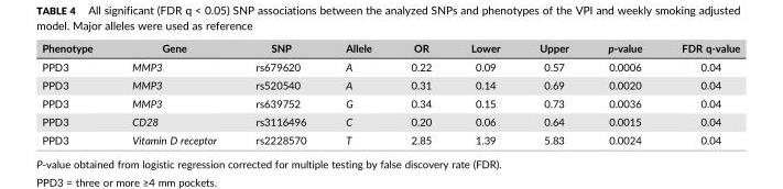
<table><thead><tr><td>Phenotype</td><td>Gene</td><td>SNP</td><td>Allele</td><td>OR</td><td>Lower</td><td>Upper</td><td>p‐value</td><td>FDR q‐value</td></tr></thead><tbody><tr><td>PPD3</td><td>MMP3</td><td>rs679620</td><td>A</td><td>0.22</td><td>0.09</td><td>0.57</td><td>0.0006</td><td>0.04</td></tr><tr><td>PPD3</td><td>MMP3</td><td>rs520540</td><td>A</td><td>0.31</td><td>0.14</td><td>0.69</td><td>0.0020</td><td>0.04</td></tr><tr><td>PPD3</td><td>MMP3</td><td>rs639752</td><td>G</td><td>0.34</td><td>0.15</td><td>0.73</td><td>0.0036</td><td>0.04</td></tr><tr><td>PPD3</td><td>CD28</td><td>rs3116496</td><td>C</td><td>0.20</td><td>0.06</td><td>0.64</td><td>0.0015</td><td>0.04</td></tr><tr><td>PPD3</td><td>Vitamin D receptor</td><td>rs2228570</td><td>T</td><td>2.85</td><td>1.39</td><td>5.83</td><td>0.0024</td><td>0.04</td></tr></tbody></table>